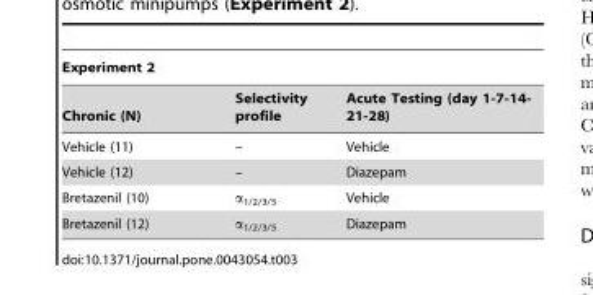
<table><thead><tr><td colspan="3">Experiment 2</td></tr><tr><td>Chronic (N)</td><td>Selectivity profile</td><td>Acute Testing (day 1-7-14- 21-28)</td></tr></thead><tbody><tr><td>Vehicle (11)</td><td>–</td><td>Vehicle</td></tr><tr><td>Vehicle (12)</td><td>–</td><td>Diazepam</td></tr><tr><td>Bretazenil (10)</td><td>α<sub>1/2/3/5</sub></td><td>Vehicle</td></tr><tr><td>Bretazenil (12)</td><td>α<sub>1/2/3/5</sub></td><td>Diazepam</td></tr></tbody></table>